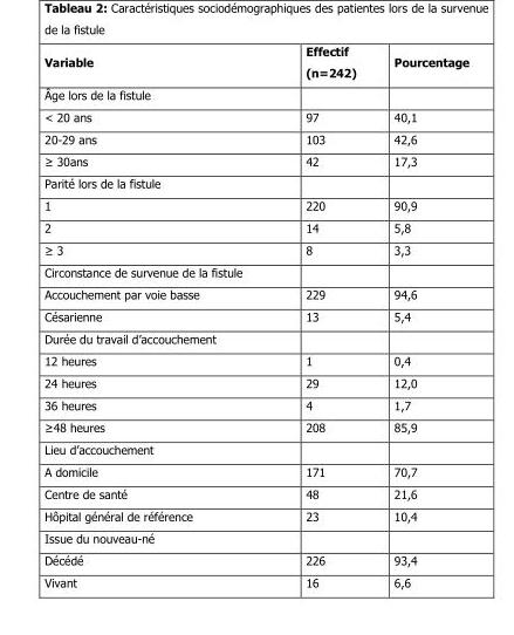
<table><thead><tr><td>Variable</td><td>Effectif (n=242)</td><td>Pourcentage</td></tr></thead><tbody><tr><td colspan="3">Âge lors de la fistule</td></tr><tr><td>&lt; 20 ans</td><td>97</td><td>40,1</td></tr><tr><td>20-29 ans</td><td>103</td><td>42,6</td></tr><tr><td>≥ 30ans</td><td>42</td><td>17,3</td></tr><tr><td colspan="3">Parité lors de la fistule</td></tr><tr><td>1</td><td>220</td><td>90,9</td></tr><tr><td>2</td><td>14</td><td>5,8</td></tr><tr><td>≥ 3</td><td>8</td><td>3,3</td></tr><tr><td colspan="3">Circonstance de survenue de la fistule</td></tr><tr><td>Accouchement par voie basse</td><td>229</td><td>94,6</td></tr><tr><td>Césarienne</td><td>13</td><td>5,4</td></tr><tr><td colspan="3">Durée du travail d’accouchement</td></tr><tr><td>12 heures</td><td>1</td><td>0,4</td></tr><tr><td>24 heures</td><td>29</td><td>12,0</td></tr><tr><td>36 heures</td><td>4</td><td>1,7</td></tr><tr><td>≥48 heures</td><td>208</td><td>85,9</td></tr><tr><td colspan="3">Lieu d’accouchement</td></tr><tr><td>A domicile</td><td>171</td><td>70,7</td></tr><tr><td>Centre de santé</td><td>48</td><td>21,6</td></tr><tr><td>Hôpital général de référence</td><td>23</td><td>10,4</td></tr><tr><td colspan="3">Issue du nouveau-né</td></tr><tr><td>Décédé</td><td>226</td><td>93,4</td></tr><tr><td>Vivant</td><td>16</td><td>6,6</td></tr></tbody></table>